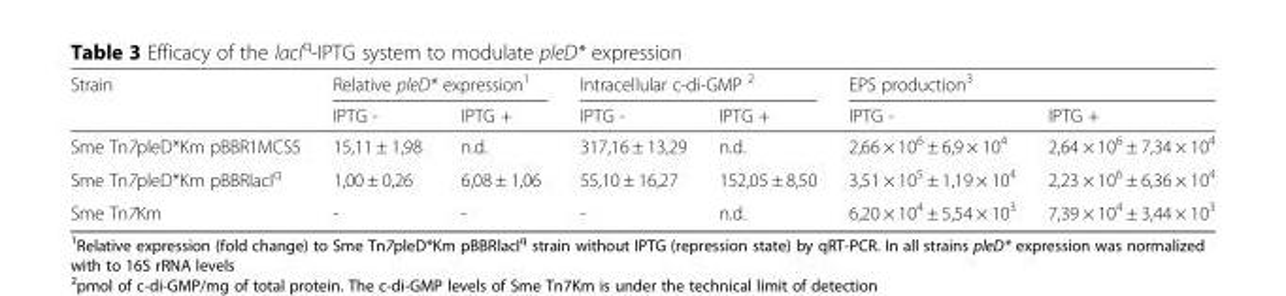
<table><thead><tr><td rowspan="2">Strain</td><td colspan="2">Relative pleD* expression<sup>1</sup></td><td colspan="2">Intracellular c-di-GMP <sup>2</sup></td><td colspan="2">EPS production<sup>3</sup></td></tr><tr><td>IPTG -</td><td>IPTG +</td><td>IPTG -</td><td>IPTG +</td><td>IPTG -</td><td>IPTG +</td></tr></thead><tbody><tr><td>Sme Tn7pleD*Km pBBR1MCS5</td><td>15,11 ± 1,98</td><td>n.d.</td><td>317,16 ± 13,29</td><td>n.d.</td><td>2,66 × 10<sup>6</sup> ± 6,9 × 10<sup>4</sup></td><td>2,64 × 10<sup>6</sup> ± 7,34 × 10<sup>4</sup></td></tr><tr><td>Sme Tn7pleD*Km pBBRlacI<sup>q</sup></td><td>1,00 ± 0,26</td><td>6,08 ± 1,06</td><td>55,10 ± 16,27</td><td>152,05 ± 8,50</td><td>3,51 × 10<sup>5</sup> ± 1,19 × 10<sup>4</sup></td><td>2,23 × 10<sup>6</sup> ± 6,36 × 10<sup>4</sup></td></tr><tr><td>Sme Tn7Km</td><td>-</td><td>-</td><td>-</td><td>n.d.</td><td>6,20 × 10<sup>4</sup> ± 5,54 × 10<sup>3</sup></td><td>7,39 × 10<sup>4</sup> ± 3,44 × 10<sup>3</sup></td></tr></tbody></table>